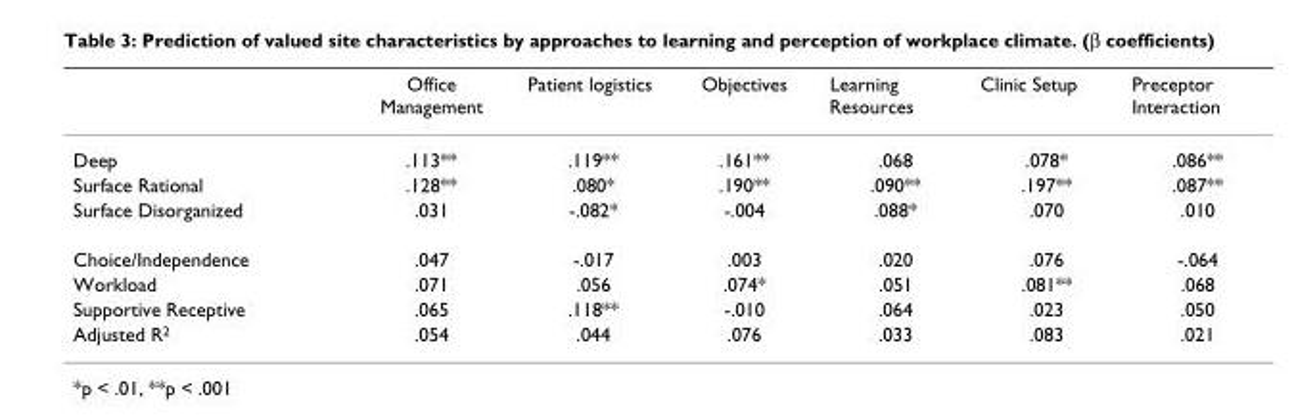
<table><thead><tr><td></td><td>Office Management</td><td>Patient logistics</td><td>Objectives</td><td>Learning Resources</td><td>Clinic Setup</td><td>Preceptor Interaction</td></tr></thead><tbody><tr><td>Deep</td><td>.113**</td><td>.119**</td><td>.161**</td><td>.068</td><td>.078*</td><td>.086**</td></tr><tr><td>Surface Rational</td><td>.128**</td><td>.080*</td><td>.190**</td><td>.090**</td><td>.197**</td><td>.087**</td></tr><tr><td>Surface Disorganized</td><td>.031</td><td>-.082*</td><td>-.004</td><td>.088*</td><td>.070</td><td>.010</td></tr><tr><td>Choice/Independence</td><td>.047</td><td>-.017</td><td>.003</td><td>.020</td><td>.076</td><td>-.064</td></tr><tr><td>Workload</td><td>.071</td><td>.056</td><td>.074*</td><td>.051</td><td>.081**</td><td>.068</td></tr><tr><td>Supportive Receptive</td><td>.065</td><td>.118**</td><td>-.010</td><td>.064</td><td>.023</td><td>.050</td></tr><tr><td>Adjusted R<sup>2</sup></td><td>.054</td><td>.044</td><td>.076</td><td>.033</td><td>.083</td><td>.021</td></tr></tbody></table>